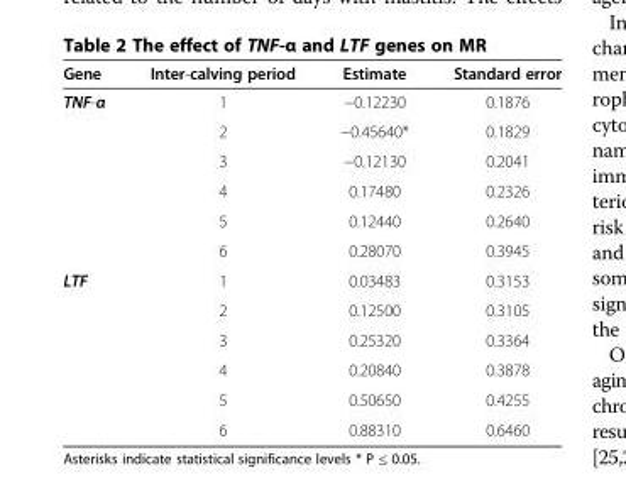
<table><thead><tr><td>Gene</td><td>Inter-calving period</td><td>Estimate</td><td>Standard error</td></tr></thead><tbody><tr><td rowspan="6">TNF-α</td><td>1</td><td>−0.12230</td><td>0.1876</td></tr><tr><td>2</td><td>−0.45640*</td><td>0.1829</td></tr><tr><td>3</td><td>−0.12130</td><td>0.2041</td></tr><tr><td>4</td><td>0.17480</td><td>0.2326</td></tr><tr><td>5</td><td>0.12440</td><td>0.2640</td></tr><tr><td>6</td><td>0.28070</td><td>0.3945</td></tr><tr><td rowspan="6">LTF</td><td>1</td><td>0.03483</td><td>0.3153</td></tr><tr><td>2</td><td>0.12500</td><td>0.3105</td></tr><tr><td>3</td><td>0.25320</td><td>0.3364</td></tr><tr><td>4</td><td>0.20840</td><td>0.3878</td></tr><tr><td>5</td><td>0.50650</td><td>0.4255</td></tr><tr><td>6</td><td>0.88310</td><td>0.6460</td></tr></tbody></table>